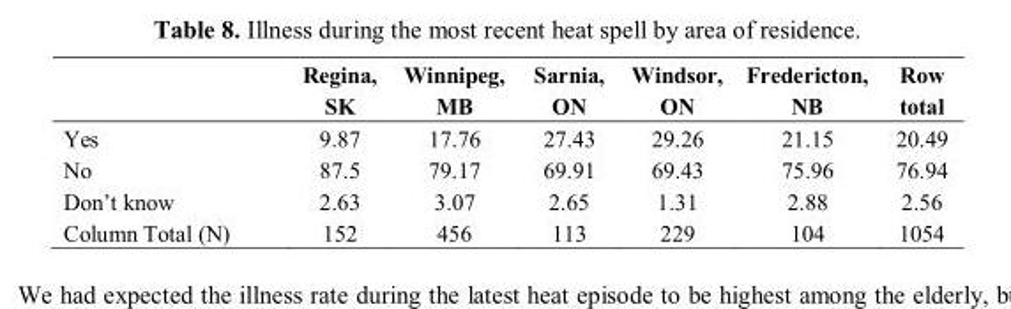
<table><thead><tr><td></td><td>Regina, SK</td><td>Winnipeg, MB</td><td>Sarnia, ON</td><td>Windsor, ON</td><td>Fredericton, NB</td><td>Row total</td></tr></thead><tbody><tr><td>Yes</td><td>9.87</td><td>17.76</td><td>27.43</td><td>29.26</td><td>21.15</td><td>20.49</td></tr><tr><td>No</td><td>87.5</td><td>79.17</td><td>69.91</td><td>69.43</td><td>75.96</td><td>76.94</td></tr><tr><td>Don’t know</td><td>2.63</td><td>3.07</td><td>2.65</td><td>1.31</td><td>2.88</td><td>2.56</td></tr><tr><td>Column Total (N)</td><td>152</td><td>456</td><td>113</td><td>229</td><td>104</td><td>1054</td></tr></tbody></table>